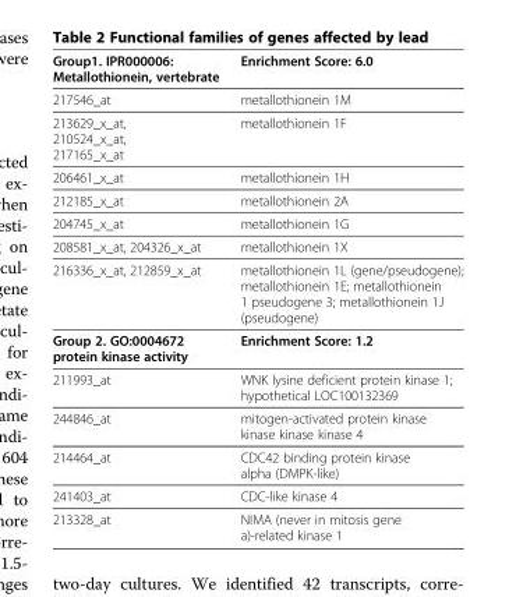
<table><thead><tr><td>Group1. IPR000006: Metallothionein, vertebrate</td><td>Enrichment Score: 6.0</td></tr></thead><tbody><tr><td>217546_at</td><td>metallothionein 1M</td></tr><tr><td>213629_x_at, 210524_x_at, 217165_x_at</td><td>metallothionein 1F</td></tr><tr><td>206461_x_at</td><td>metallothionein 1H</td></tr><tr><td>212185_x_at</td><td>metallothionein 2A</td></tr><tr><td>204745_x_at</td><td>metallothionein 1G</td></tr><tr><td>208581_x_at, 204326_x_at</td><td>metallothionein 1X</td></tr><tr><td>216336_x_at, 212859_x_at</td><td>metallothionein 1L (gene/pseudogene); metallothionein 1E; metallothionein 1 pseudogene 3; metallothionein 1J (pseudogene)</td></tr><tr><td>Group 2. GO:0004672 protein kinase activity</td><td>Enrichment Score: 1.2</td></tr><tr><td>211993_at</td><td>WNK lysine deficient protein kinase 1; hypothetical LOC100132369</td></tr><tr><td>244846_at</td><td>mitogen-activated protein kinase kinase kinase kinase 4</td></tr><tr><td>214464_at</td><td>CDC42 binding protein kinase alpha (DMPK-like)</td></tr><tr><td>241403_at</td><td>CDC-like kinase 4</td></tr><tr><td>213328_at</td><td>NIMA (never in mitosis gene a)-related kinase 1</td></tr></tbody></table>